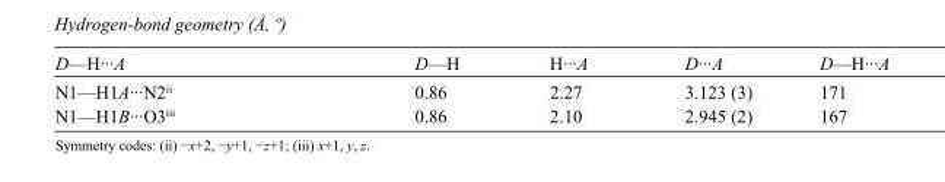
<table><tbody><tr><td>D—H···A</td><td>D—H</td><td>H···A</td><td>D···A</td><td>D—H···A</td></tr><tr><td>N1—H1A···N2<sup>ii</sup></td><td>0.86</td><td>2.27</td><td>3.123 (3)</td><td>171</td></tr><tr><td>N1—H1B···O3<sup>iii</sup></td><td>0.86</td><td>2.10</td><td>2.945 (2)</td><td>167</td></tr></tbody></table>